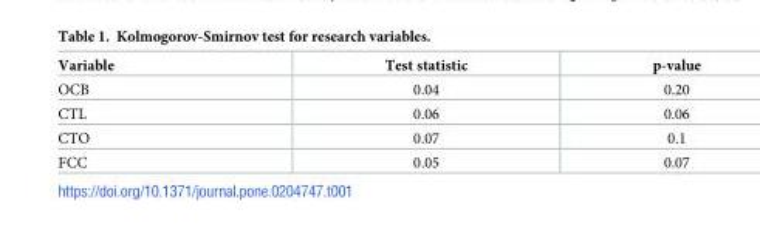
<table><thead><tr><td>Variable</td><td>Test statistic</td><td>p-value</td></tr></thead><tbody><tr><td>OCB</td><td>0.04</td><td>0.20</td></tr><tr><td>CTL</td><td>0.06</td><td>0.06</td></tr><tr><td>CTO</td><td>0.07</td><td>0.1</td></tr><tr><td>FCC</td><td>0.05</td><td>0.07</td></tr></tbody></table>